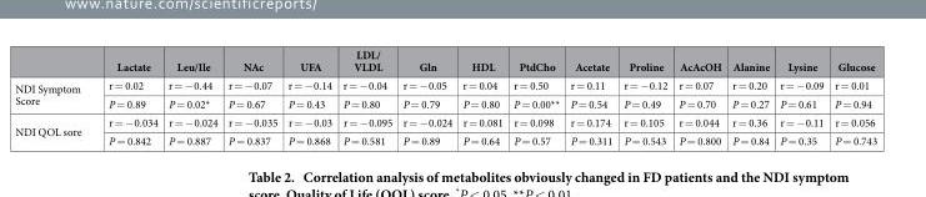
<table><thead><tr><td></td><td>Lactate</td><td>Leu/Ile</td><td>NAc</td><td>UFA</td><td>LDL/ VLDL</td><td>Gln</td><td>HDL</td><td>PtdCho</td><td>Acetate</td><td>Proline</td><td>AcAcOH</td><td>Alanine</td><td>Lysine</td><td>Glucose</td></tr></thead><tbody><tr><td rowspan="2">NDI Symptom Score</td><td>r = 0.02</td><td>r = − 0.44</td><td>r = − 0.07</td><td>r = − 0.14</td><td>r = − 0.04</td><td>r = − 0.05</td><td>r = 0.04</td><td>r = 0.50</td><td>r = 0.11</td><td>r = − 0.12</td><td>r = 0.07</td><td>r = 0.20</td><td>r = − 0.09</td><td>r = 0.01</td></tr><tr><td>P = 0.89</td><td>P = 0.02*</td><td>P = 0.67</td><td>P = 0.43</td><td>P = 0.80</td><td>P = 0.79</td><td>P = 0.80</td><td>P = 0.00**</td><td>P = 0.54</td><td>P = 0.49</td><td>P = 0.70</td><td>P = 0.27</td><td>P = 0.61</td><td>P = 0.94</td></tr><tr><td rowspan="2">NDI QOL sore</td><td>r = − 0.034</td><td>r = − 0.024</td><td>r = − 0.035</td><td>r = − 0.03</td><td>r = − 0.095</td><td>r = − 0.024</td><td>r = 0.081</td><td>r = 0.098</td><td>r = 0.174</td><td>r = 0.105</td><td>r = 0.044</td><td>r = 0.36</td><td>r = − 0.11</td><td>r = 0.056</td></tr><tr><td>P = 0.842</td><td>P = 0.887</td><td>P = 0.837</td><td>P = 0.868</td><td>P = 0.581</td><td>P = 0.89</td><td>P = 0.64</td><td>P = 0.57</td><td>P = 0.311</td><td>P = 0.543</td><td>P = 0.800</td><td>P = 0.84</td><td>P = 0.35</td><td>P = 0.743</td></tr></tbody></table>